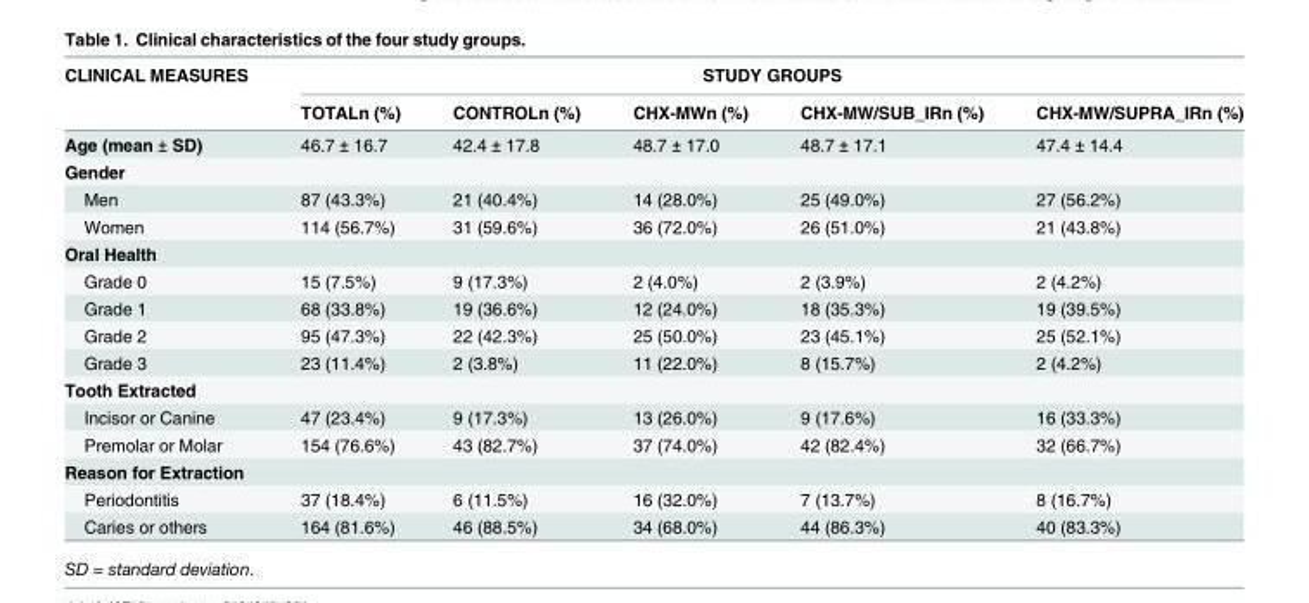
<table><thead><tr><td rowspan="2">CLINICAL MEASURES</td><td colspan="5">STUDY GROUPS</td></tr><tr><td>TOTALn (%)</td><td>CONTROLn (%)</td><td>CHX-MWn (%)</td><td>CHX-MW/SUB_IRn (%)</td><td>CHX-MW/SUPRA_IRn (%)</td></tr></thead><tbody><tr><td>Age (mean ± SD)</td><td>46.7 ± 16.7</td><td>42.4 ± 17.8</td><td>48.7 ± 17.0</td><td>48.7 ± 17.1</td><td>47.4 ± 14.4</td></tr><tr><td colspan="6">Gender</td></tr><tr><td>Men</td><td>87 (43.3%)</td><td>21 (40.4%)</td><td>14 (28.0%)</td><td>25 (49.0%)</td><td>27 (56.2%)</td></tr><tr><td>Women</td><td>114 (56.7%)</td><td>31 (59.6%)</td><td>36 (72.0%)</td><td>26 (51.0%)</td><td>21 (43.8%)</td></tr><tr><td colspan="6">Oral Health</td></tr><tr><td>Grade 0</td><td>15 (7.5%)</td><td>9 (17.3%)</td><td>2 (4.0%)</td><td>2 (3.9%)</td><td>2 (4.2%)</td></tr><tr><td>Grade 1</td><td>68 (33.8%)</td><td>19 (36.6%)</td><td>12 (24.0%)</td><td>18 (35.3%)</td><td>19 (39.5%)</td></tr><tr><td>Grade 2</td><td>95 (47.3%)</td><td>22 (42.3%)</td><td>25 (50.0%)</td><td>23 (45.1%)</td><td>25 (52.1%)</td></tr><tr><td>Grade 3</td><td>23 (11.4%)</td><td>2 (3.8%)</td><td>11 (22.0%)</td><td>8 (15.7%)</td><td>2 (4.2%)</td></tr><tr><td colspan="6">Tooth Extracted</td></tr><tr><td>Incisor or Canine</td><td>47 (23.4%)</td><td>9 (17.3%)</td><td>13 (26.0%)</td><td>9 (17.6%)</td><td>16 (33.3%)</td></tr><tr><td>Premolar or Molar</td><td>154 (76.6%)</td><td>43 (82.7%)</td><td>37 (74.0%)</td><td>42 (82.4%)</td><td>32 (66.7%)</td></tr><tr><td colspan="6">Reason for Extraction</td></tr><tr><td>Periodontitis</td><td>37 (18.4%)</td><td>6 (11.5%)</td><td>16 (32.0%)</td><td>7 (13.7%)</td><td>8 (16.7%)</td></tr><tr><td>Caries or others</td><td>164 (81.6%)</td><td>46 (88.5%)</td><td>34 (68.0%)</td><td>44 (86.3%)</td><td>40 (83.3%)</td></tr></tbody></table>